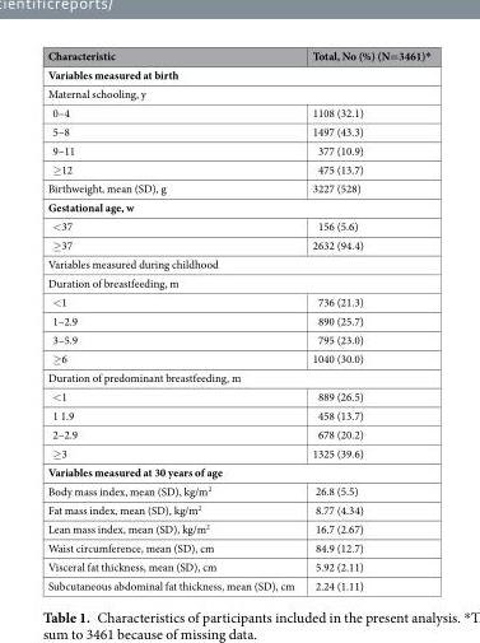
<table><thead><tr><td>Characteristic</td><td>Total, No (%) (N=3461)*</td></tr></thead><tbody><tr><td colspan="2">Variables measured at birth</td></tr><tr><td colspan="2">Maternal schooling, y</td></tr><tr><td>0–4</td><td>1108 (32.1)</td></tr><tr><td>5–8</td><td>1497 (43.3)</td></tr><tr><td>9–11</td><td>377 (10.9)</td></tr><tr><td>≥12</td><td>475 (13.7)</td></tr><tr><td>Birthweight, mean (SD), g</td><td>3227 (528)</td></tr><tr><td colspan="2">Gestational age, w</td></tr><tr><td>&lt;37</td><td>156 (5.6)</td></tr><tr><td>≥37</td><td>2632 (94.4)</td></tr><tr><td colspan="2">Variables measured during childhood</td></tr><tr><td colspan="2">Duration of breastfeeding, m</td></tr><tr><td>&lt;1</td><td>736 (21.3)</td></tr><tr><td>1–2.9</td><td>890 (25.7)</td></tr><tr><td>3–5.9</td><td>795 (23.0)</td></tr><tr><td>≥6</td><td>1040 (30.0)</td></tr><tr><td colspan="2">Duration of predominant breastfeeding, m</td></tr><tr><td>&lt;1</td><td>889 (26.5)</td></tr><tr><td>1 1.9</td><td>458 (13.7)</td></tr><tr><td>2–2.9</td><td>678 (20.2)</td></tr><tr><td>≥3</td><td>1325 (39.6)</td></tr><tr><td colspan="2">Variables measured at 30 years of age</td></tr><tr><td>Body mass index, mean (SD), kg/m<sup>2</sup></td><td>26.8 (5.5)</td></tr><tr><td>Fat mass index, mean (SD), kg/m<sup>2</sup></td><td>8.77 (4.34)</td></tr><tr><td>Lean mass index, mean (SD), kg/m<sup>2</sup></td><td>16.7 (2.67)</td></tr><tr><td>Waist circumference, mean (SD), cm</td><td>84.9 (12.7)</td></tr><tr><td>Visceral fat thickness, mean (SD), cm</td><td>5.92 (2.11)</td></tr><tr><td>Subcutaneous abdominal fat thickness, mean (SD), cm</td><td>2.24 (1.11)</td></tr></tbody></table>